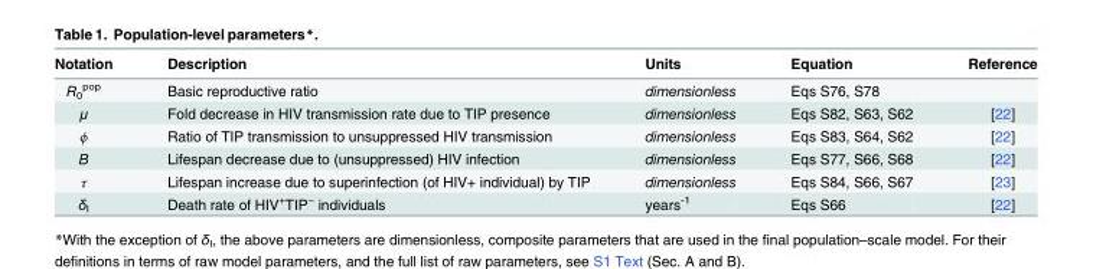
<table><thead><tr><td>Notation</td><td>Description</td><td>Units</td><td>Equation</td><td>Reference</td></tr></thead><tbody><tr><td>R<sub>0</sub> <sup>pop</sup></td><td>Basic reproductive ratio</td><td>dimensionless</td><td>Eqs S76, S78</td><td></td></tr><tr><td>μ</td><td>Fold decrease in HIV transmission rate due to TIP presence</td><td>dimensionless</td><td>Eqs S82, S63, S62</td><td>[22]</td></tr><tr><td>ϕ</td><td>Ratio of TIP transmission to unsuppressed HIV transmission</td><td>dimensionless</td><td>Eqs S83, S64, S62</td><td>[22]</td></tr><tr><td>B</td><td>Lifespan decrease due to (unsuppressed) HIV infection</td><td>dimensionless</td><td>Eqs S77, S66, S68</td><td>[22]</td></tr><tr><td>τ</td><td>Lifespan increase due to superinfection (of HIV+ individual) by TIP</td><td>dimensionless</td><td>Eqs S84, S66, S67</td><td>[23]</td></tr><tr><td>δ<sub>I</sub></td><td>Death rate of HIV<sup>+</sup>TIP<sup>−</sup> individuals</td><td>years<sup>-1</sup></td><td>Eqs S66</td><td>[22]</td></tr></tbody></table>